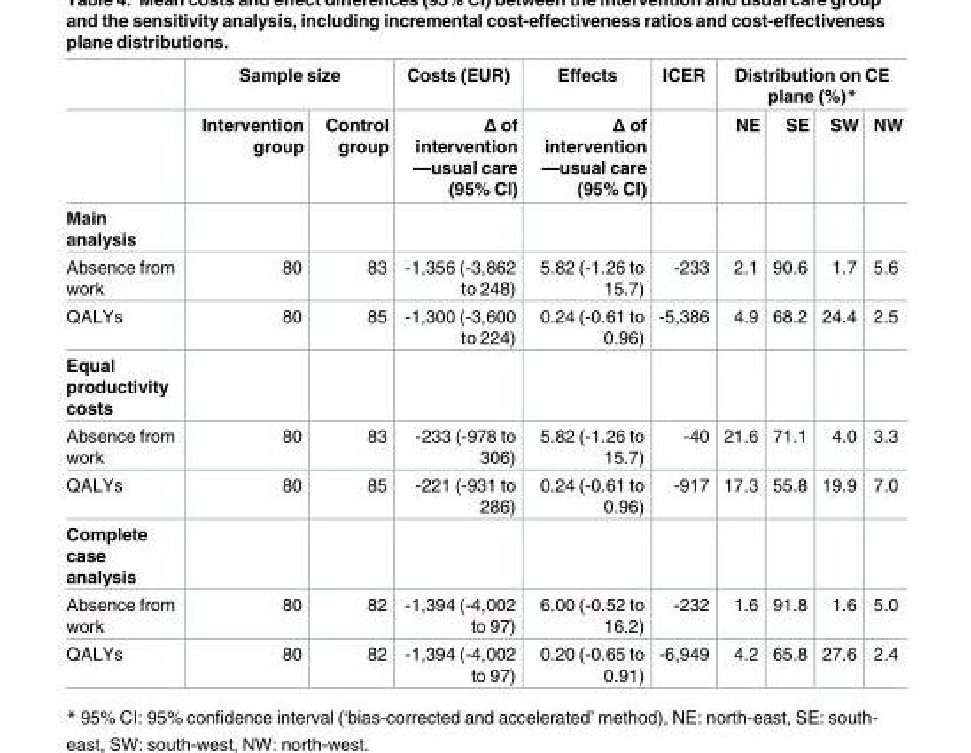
<table><thead><tr><td rowspan="2"></td><td colspan="2">Sample size</td><td rowspan="2">Costs (EUR) Δ of intervention —usual care (95% CI)</td><td rowspan="2">Effects Δ of intervention —usual care (95% CI)</td><td rowspan="2">ICER</td><td colspan="4">Distribution on CE plane (%)*</td></tr><tr><td>Intervention group</td><td>Control group</td><td>NE</td><td>SE</td><td>SW</td><td>NW</td></tr></thead><tbody><tr><td colspan="10">Main analysis</td></tr><tr><td>Absence from work</td><td>80</td><td>83</td><td>-1,356 (-3,862 to 248)</td><td>5.82 (-1.26 to 15.7)</td><td>-233</td><td>2.1</td><td>90.6</td><td>1.7</td><td>5.6</td></tr><tr><td>QALYs</td><td>80</td><td>85</td><td>-1,300 (-3,600 to 224)</td><td>0.24 (-0.61 to 0.96)</td><td>-5,386</td><td>4.9</td><td>68.2</td><td>24.4</td><td>2.5</td></tr><tr><td colspan="10">Equal productivity costs</td></tr><tr><td>Absence from work</td><td>80</td><td>83</td><td>-233 (-978 to 306)</td><td>5.82 (-1.26 to 15.7)</td><td>-40</td><td>21.6</td><td>71.1</td><td>4.0</td><td>3.3</td></tr><tr><td>QALYs</td><td>80</td><td>85</td><td>-221 (-931 to 286)</td><td>0.24 (-0.61 to 0.96)</td><td>-917</td><td>17.3</td><td>55.8</td><td>19.9</td><td>7.0</td></tr><tr><td colspan="10">Complete case analysis</td></tr><tr><td>Absence from work</td><td>80</td><td>82</td><td>-1,394 (-4,002 to 97)</td><td>6.00 (-0.52 to 16.2)</td><td>-232</td><td>1.6</td><td>91.8</td><td>1.6</td><td>5.0</td></tr><tr><td>QALYs</td><td>80</td><td>82</td><td>-1,394 (-4,002 to 97)</td><td>0.20 (-0.65 to 0.91)</td><td>-6,949</td><td>4.2</td><td>65.8</td><td>27.6</td><td>2.4</td></tr></tbody></table>